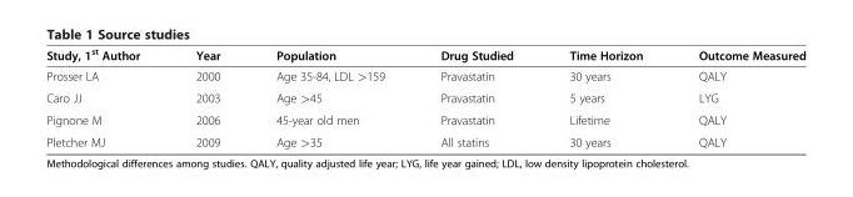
<table><thead><tr><td>Study, 1<sup>st</sup> Author</td><td>Year</td><td>Population</td><td>Drug Studied</td><td>Time Horizon</td><td>Outcome Measured</td></tr></thead><tbody><tr><td>Prosser LA</td><td>2000</td><td>Age 35-84, LDL &gt;159</td><td>Pravastatin</td><td>30 years</td><td>QALY</td></tr><tr><td>Caro JJ</td><td>2003</td><td>Age &gt;45</td><td>Pravastatin</td><td>5 years</td><td>LYG</td></tr><tr><td>Pignone M</td><td>2006</td><td>45-year old men</td><td>Pravastatin</td><td>Lifetime</td><td>QALY</td></tr><tr><td>Pletcher MJ</td><td>2009</td><td>Age &gt;35</td><td>All statins</td><td>30 years</td><td>QALY</td></tr></tbody></table>